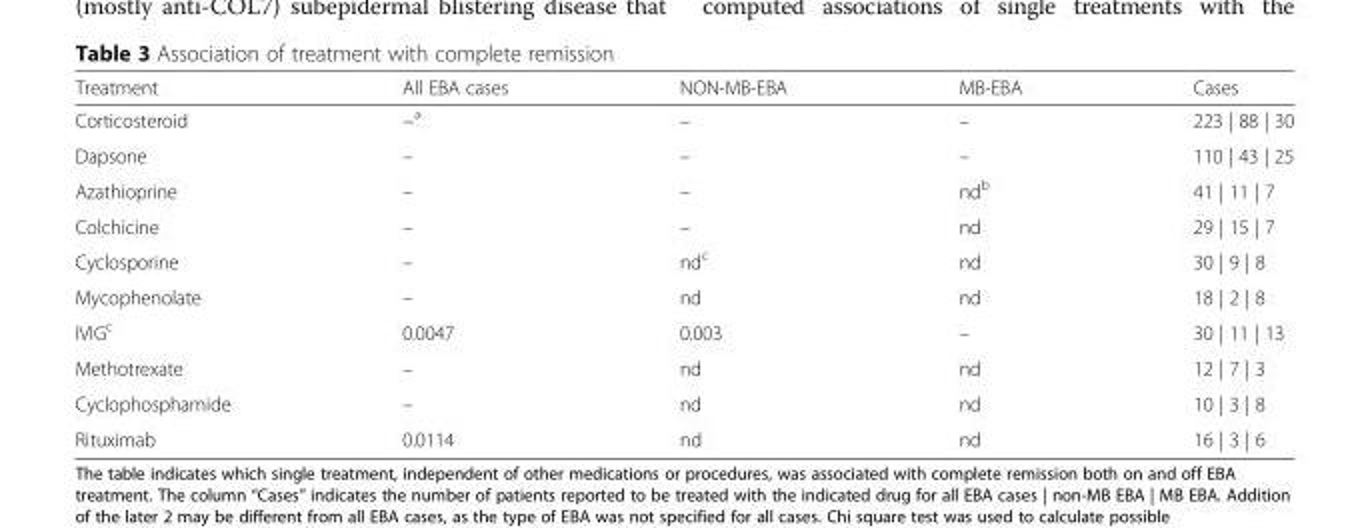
<table><thead><tr><td>Treatment</td><td>All EBA cases</td><td>NON-MB-EBA</td><td>MB-EBA</td><td>Cases</td></tr></thead><tbody><tr><td>Corticosteroid</td><td>−<sup>a</sup></td><td>–</td><td>–</td><td>223 | 88 | 30</td></tr><tr><td>Dapsone</td><td>–</td><td>–</td><td>–</td><td>110 | 43 | 25</td></tr><tr><td>Azathioprine</td><td>–</td><td>–</td><td>nd<sup>b</sup></td><td>41 | 11 | 7</td></tr><tr><td>Colchicine</td><td>–</td><td>–</td><td>nd</td><td>29 | 15 | 7</td></tr><tr><td>Cyclosporine</td><td>–</td><td>nd<sup>c</sup></td><td>nd</td><td>30 | 9 | 8</td></tr><tr><td>Mycophenolate</td><td>–</td><td>nd</td><td>nd</td><td>18 | 2 | 8</td></tr><tr><td>IVIG<sup>c</sup></td><td>0.0047</td><td>0.003</td><td>–</td><td>30 | 11 | 13</td></tr><tr><td>Methotrexate</td><td>–</td><td>nd</td><td>nd</td><td>12 | 7 | 3</td></tr><tr><td>Cyclophosphamide</td><td>–</td><td>nd</td><td>nd</td><td>10 | 3 | 8</td></tr><tr><td>Rituximab</td><td>0.0114</td><td>nd</td><td>nd</td><td>16 | 3 | 6</td></tr></tbody></table>